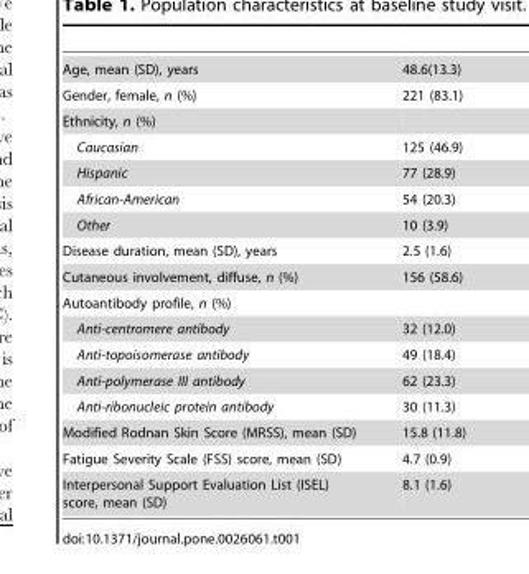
<table><tbody><tr><td>Age, mean (SD), years</td><td>48.6(13.3)</td></tr><tr><td>Gender, female, n (%)</td><td>221 (83.1)</td></tr><tr><td colspan="2">Ethnicity, n (%)</td></tr><tr><td>Caucasian</td><td>125 (46.9)</td></tr><tr><td>Hispanic</td><td>77 (28.9)</td></tr><tr><td>African-American</td><td>54 (20.3)</td></tr><tr><td>Other</td><td>10 (3.9)</td></tr><tr><td>Disease duration, mean (SD), years</td><td>2.5 (1.6)</td></tr><tr><td>Cutaneous involvement, diffuse, n (%)</td><td>156 (58.6)</td></tr><tr><td colspan="2">Autoantibody profile, n (%)</td></tr><tr><td>Anti-centromere antibody</td><td>32 (12.0)</td></tr><tr><td>Anti-topoisomerase antibody</td><td>49 (18.4)</td></tr><tr><td>Anti-polymerase III antibody</td><td>62 (23.3)</td></tr><tr><td>Anti-ribonucleic protein antibody</td><td>30 (11.3)</td></tr><tr><td>Modified Rodnan Skin Score (MRSS), mean (SD)</td><td>15.8 (11.8)</td></tr><tr><td>Fatigue Severity Scale (FSS) score, mean (SD)</td><td>4.7 (0.9)</td></tr><tr><td>Interpersonal Support Evaluation List (ISEL) score, mean (SD)</td><td>8.1 (1.6)</td></tr></tbody></table>